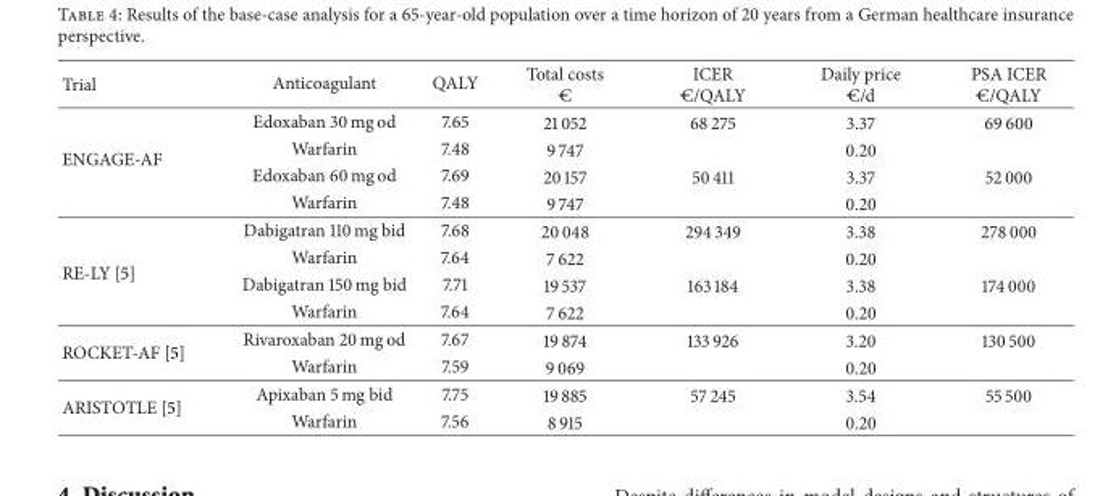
<table><thead><tr><td>Trial</td><td>Anticoagulant</td><td>QALY</td><td>Total costs €</td><td>ICER €/QALY</td><td>Daily price €/d</td><td>PSA ICER €/QALY</td></tr></thead><tbody><tr><td rowspan="4">ENGAGE-AF</td><td>Edoxaban 30 mg od</td><td>7.65</td><td>21 052</td><td>68 275</td><td>3.37</td><td>69 600</td></tr><tr><td>Warfarin</td><td>7.48</td><td>9 747</td><td></td><td>0.20</td><td></td></tr><tr><td>Edoxaban 60 mg od</td><td>7.69</td><td>20 157</td><td>50 411</td><td>3.37</td><td>52 000</td></tr><tr><td>Warfarin</td><td>7.48</td><td>9 747</td><td></td><td>0.20</td><td></td></tr><tr><td rowspan="4">RE-LY [5]</td><td>Dabigatran 110 mg bid</td><td>7.68</td><td>20 048</td><td>294 349</td><td>3.38</td><td>278 000</td></tr><tr><td>Warfarin</td><td>7.64</td><td>7 622</td><td></td><td>0.20</td><td></td></tr><tr><td>Dabigatran 150 mg bid</td><td>7.71</td><td>19 537</td><td>163 184</td><td>3.38</td><td>174 000</td></tr><tr><td>Warfarin</td><td>7.64</td><td>7 622</td><td></td><td>0.20</td><td></td></tr><tr><td rowspan="2">ROCKET-AF [5]</td><td>Rivaroxaban 20 mg od</td><td>7.67</td><td>19 874</td><td>133 926</td><td>3.20</td><td>130 500</td></tr><tr><td>Warfarin</td><td>7.59</td><td>9 069</td><td></td><td>0.20</td><td></td></tr><tr><td rowspan="2">ARISTOTLE [5]</td><td>Apixaban 5 mg bid</td><td>7.75</td><td>19 885</td><td>57 245</td><td>3.54</td><td>55 500</td></tr><tr><td>Warfarin</td><td>7.56</td><td>8 915</td><td></td><td>0.20</td><td></td></tr></tbody></table>